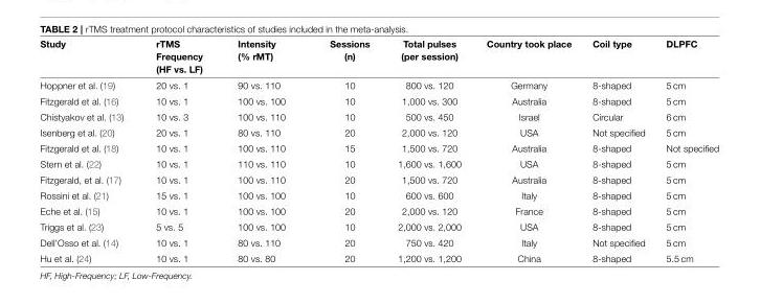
<table><thead><tr><td>Study</td><td>rTMS Frequency (HF vs. LF)</td><td>Intensity (% rMT)</td><td>Sessions (n)</td><td>Total pulses (per session)</td><td>Country took place</td><td>Coil type</td><td>DLPFC</td></tr></thead><tbody><tr><td>Hoppner et al. (19)</td><td>20 vs. 1</td><td>90 vs. 110</td><td>10</td><td>800 vs. 120</td><td>Germany</td><td>8-shaped</td><td>5 cm</td></tr><tr><td>Fitzgerald et al. (16)</td><td>10 vs. 1</td><td>100 vs. 100</td><td>10</td><td>1,000 vs. 300</td><td>Australia</td><td>8-shaped</td><td>5 cm</td></tr><tr><td>Chistyakov et al. (13)</td><td>10 vs. 3</td><td>100 vs. 110</td><td>10</td><td>500 vs. 450</td><td>Israel</td><td>Circular</td><td>6 cm</td></tr><tr><td>Isenberg et al. (20)</td><td>20 vs. 1</td><td>80 vs. 110</td><td>20</td><td>2,000 vs. 120</td><td>USA</td><td>Not specified</td><td>5 cm</td></tr><tr><td>Fitzgerald et al. (18)</td><td>10 vs. 1</td><td>100 vs. 110</td><td>15</td><td>1,500 vs. 720</td><td>Australia</td><td>8-shaped</td><td>Not specified</td></tr><tr><td>Stern et al. (22)</td><td>10 vs. 1</td><td>110 vs. 110</td><td>10</td><td>1,600 vs. 1,600</td><td>USA</td><td>8-shaped</td><td>5 cm</td></tr><tr><td>Fitzgerald, et al. (17)</td><td>10 vs. 1</td><td>100 vs. 110</td><td>20</td><td>1,500 vs. 720</td><td>Australia</td><td>8-shaped</td><td>5 cm</td></tr><tr><td>Rossini et al. (21)</td><td>15 vs. 1</td><td>100 vs. 100</td><td>10</td><td>600 vs. 600</td><td>Italy</td><td>8-shaped</td><td>5 cm</td></tr><tr><td>Eche et al. (15)</td><td>10 vs. 1</td><td>100 vs. 100</td><td>20</td><td>2,000 vs. 120</td><td>France</td><td>8-shaped</td><td>5 cm</td></tr><tr><td>Triggs et al. (23)</td><td>5 vs. 5</td><td>100 vs. 100</td><td>10</td><td>2,000 vs. 2,000</td><td>USA</td><td>8-shaped</td><td>5 cm</td></tr><tr><td>Dell’Osso et al. (14)</td><td>10 vs. 1</td><td>80 vs. 110</td><td>20</td><td>750 vs. 420</td><td>Italy</td><td>Not specified</td><td>5 cm</td></tr><tr><td>Hu et al. (24)</td><td>10 vs. 1</td><td>80 vs. 80</td><td>20</td><td>1,200 vs. 1,200</td><td>China</td><td>8-shaped</td><td>5.5 cm</td></tr></tbody></table>